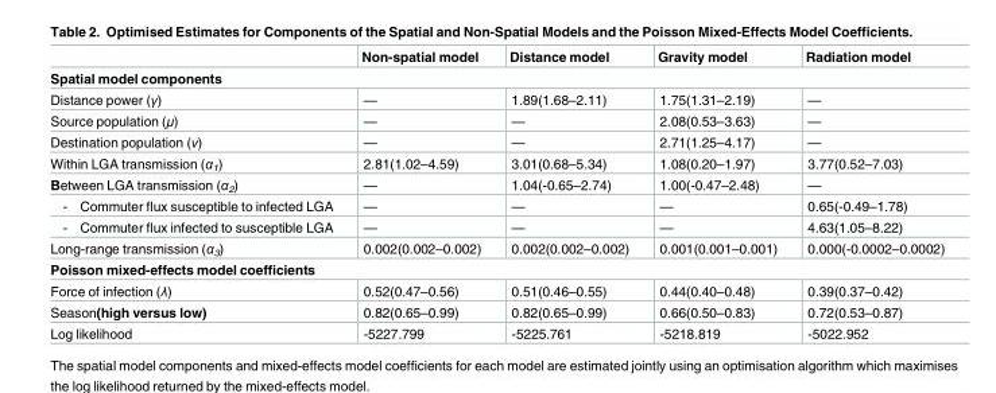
<table><thead><tr><td></td><td>Non-spatial model</td><td>Distance model</td><td>Gravity model</td><td>Radiation model</td></tr></thead><tbody><tr><td colspan="5">Spatial model components</td></tr><tr><td>Distance power (γ)</td><td>—</td><td>1.89(1.68–2.11)</td><td>1.75(1.31–2.19)</td><td>—</td></tr><tr><td>Source population (μ)</td><td>—</td><td>—</td><td>2.08(0.53–3.63)</td><td>—</td></tr><tr><td>Destination population (ν)</td><td>—</td><td>—</td><td>2.71(1.25–4.17)</td><td>—</td></tr><tr><td>Within LGA transmission (α<sub>1</sub>)</td><td>2.81(1.02–4.59)</td><td>3.01(0.68–5.34)</td><td>1.08(0.20–1.97)</td><td>3.77(0.52–7.03)</td></tr><tr><td>Between LGA transmission (α<sub>2</sub>)</td><td>—</td><td>1.04(-0.65–2.74)</td><td>1.00(-0.47–2.48)</td><td>—</td></tr><tr><td>- Commuter flux susceptible to infected LGA</td><td>—</td><td>—</td><td>—</td><td>0.65(-0.49–1.78)</td></tr><tr><td>- Commuter flux infected to susceptible LGA</td><td>—</td><td>—</td><td>—</td><td>4.63(1.05–8.22)</td></tr><tr><td>Long-range transmission (α<sub>3</sub>)</td><td>0.002(0.002–0.002)</td><td>0.002(0.002–0.002)</td><td>0.001(0.001–0.001)</td><td>0.000(-0.0002–0.0002)</td></tr><tr><td colspan="5">Poisson mixed-effects model coefficients</td></tr><tr><td>Force of infection (λ)</td><td>0.52(0.47–0.56)</td><td>0.51(0.46–0.55)</td><td>0.44(0.40–0.48)</td><td>0.39(0.37–0.42)</td></tr><tr><td>Season(high versus low)</td><td>0.82(0.65–0.99)</td><td>0.82(0.65–0.99)</td><td>0.66(0.50–0.83)</td><td>0.72(0.53–0.87)</td></tr><tr><td>Log likelihood</td><td>-5227.799</td><td>-5225.761</td><td>-5218.819</td><td>-5022.952</td></tr></tbody></table>